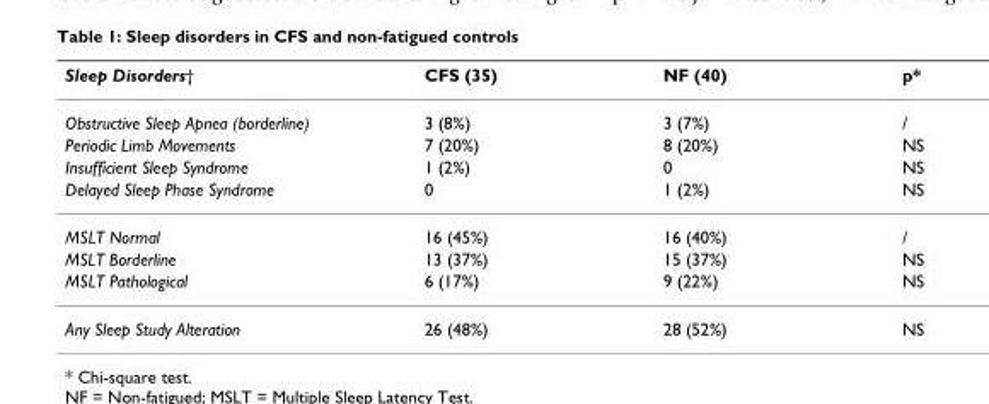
<table><thead><tr><td>Sleep Disorders†</td><td>CFS (35)</td><td>NF (40)</td><td>p*</td></tr></thead><tbody><tr><td>Obstructive Sleep Apnea (borderline)</td><td>3 (8%)</td><td>3 (7%)</td><td>/</td></tr><tr><td>Periodic Limb Movements</td><td>7 (20%)</td><td>8 (20%)</td><td>NS</td></tr><tr><td>Insufficient Sleep Syndrome</td><td>1 (2%)</td><td>0</td><td>NS</td></tr><tr><td>Delayed Sleep Phase Syndrome</td><td>0</td><td>1 (2%)</td><td>NS</td></tr><tr><td>MSLT Normal</td><td>16 (45%)</td><td>16 (40%)</td><td>/</td></tr><tr><td>MSLT Borderline</td><td>13 (37%)</td><td>15 (37%)</td><td>NS</td></tr><tr><td>MSLT Pathological</td><td>6 (17%)</td><td>9 (22%)</td><td>NS</td></tr><tr><td>Any Sleep Study Alteration</td><td>26 (48%)</td><td>28 (52%)</td><td>NS</td></tr></tbody></table>